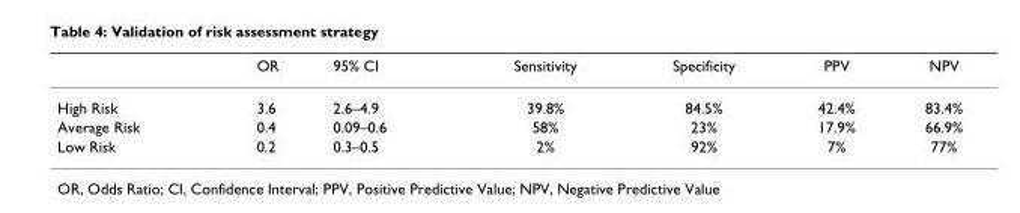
<table><thead><tr><td></td><td>OR</td><td>95% CI</td><td>Sensitivity</td><td>Specificity</td><td>PPV</td><td>NPV</td></tr></thead><tbody><tr><td>High Risk</td><td>3.6</td><td>2.6–4.9</td><td>39.8%</td><td>84.5%</td><td>42.4%</td><td>83.4%</td></tr><tr><td>Average Risk</td><td>0.4</td><td>0.09–0.6</td><td>58%</td><td>23%</td><td>17.9%</td><td>66.9%</td></tr><tr><td>Low Risk</td><td>0.2</td><td>0.3–0.5</td><td>2%</td><td>92%</td><td>7%</td><td>77%</td></tr></tbody></table>